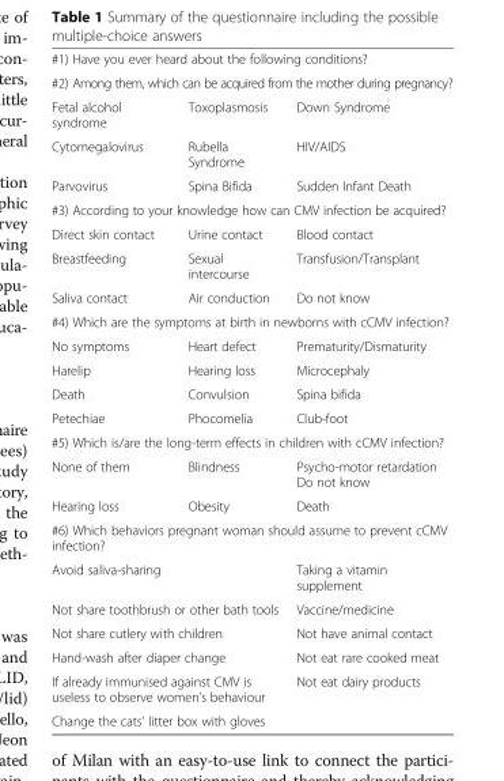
<table><tbody><tr><td colspan="3">#1) Have you ever heard about the following conditions?</td></tr><tr><td colspan="3">#2) Among them, which can be acquired from the mother during pregnancy?</td></tr><tr><td>Fetal alcohol syndrome</td><td>Toxoplasmosis</td><td>Down Syndrome</td></tr><tr><td>Cytomegalovirus</td><td>Rubella Syndrome</td><td>HIV/AIDS</td></tr><tr><td>Parvovirus</td><td>Spina Bifida</td><td>Sudden Infant Death</td></tr><tr><td colspan="3">#3) According to your knowledge how can CMV infection be acquired?</td></tr><tr><td>Direct skin contact</td><td>Urine contact</td><td>Blood contact</td></tr><tr><td>Breastfeeding</td><td>Sexual intercourse</td><td>Transfusion/Transplant</td></tr><tr><td>Saliva contact</td><td>Air conduction</td><td>Do not know</td></tr><tr><td colspan="3">#4) Which are the symptoms at birth in newborns with cCMV infection?</td></tr><tr><td>No symptoms</td><td>Heart defect</td><td>Prematurity/Dismaturity</td></tr><tr><td>Harelip</td><td>Hearing loss</td><td>Microcephaly</td></tr><tr><td>Death</td><td>Convulsion</td><td>Spina bifida</td></tr><tr><td>Petechiae</td><td>Phocomelia</td><td>Club-foot</td></tr><tr><td colspan="3">#5) Which is/are the long-term effects in children with cCMV infection?</td></tr><tr><td>None of them</td><td>Blindness</td><td>Psycho-motor retardation Do not know</td></tr><tr><td>Hearing loss</td><td>Obesity</td><td>Death</td></tr><tr><td colspan="3">#6) Which behaviors pregnant woman should assume to prevent cCMV infection?</td></tr><tr><td colspan="2">Avoid saliva-sharing</td><td>Taking a vitamin supplement</td></tr><tr><td colspan="2">Not share toothbrush or other bath tools</td><td>Vaccine/medicine</td></tr><tr><td colspan="2">Not share cutlery with children</td><td>Not have animal contact</td></tr><tr><td colspan="2">Hand-wash after diaper change</td><td>Not eat rare cooked meat</td></tr><tr><td colspan="2">If already immunised against CMV is useless to observe women’s behaviour</td><td>Not eat dairy products</td></tr><tr><td colspan="3">Change the cats’ litter box with gloves</td></tr></tbody></table>